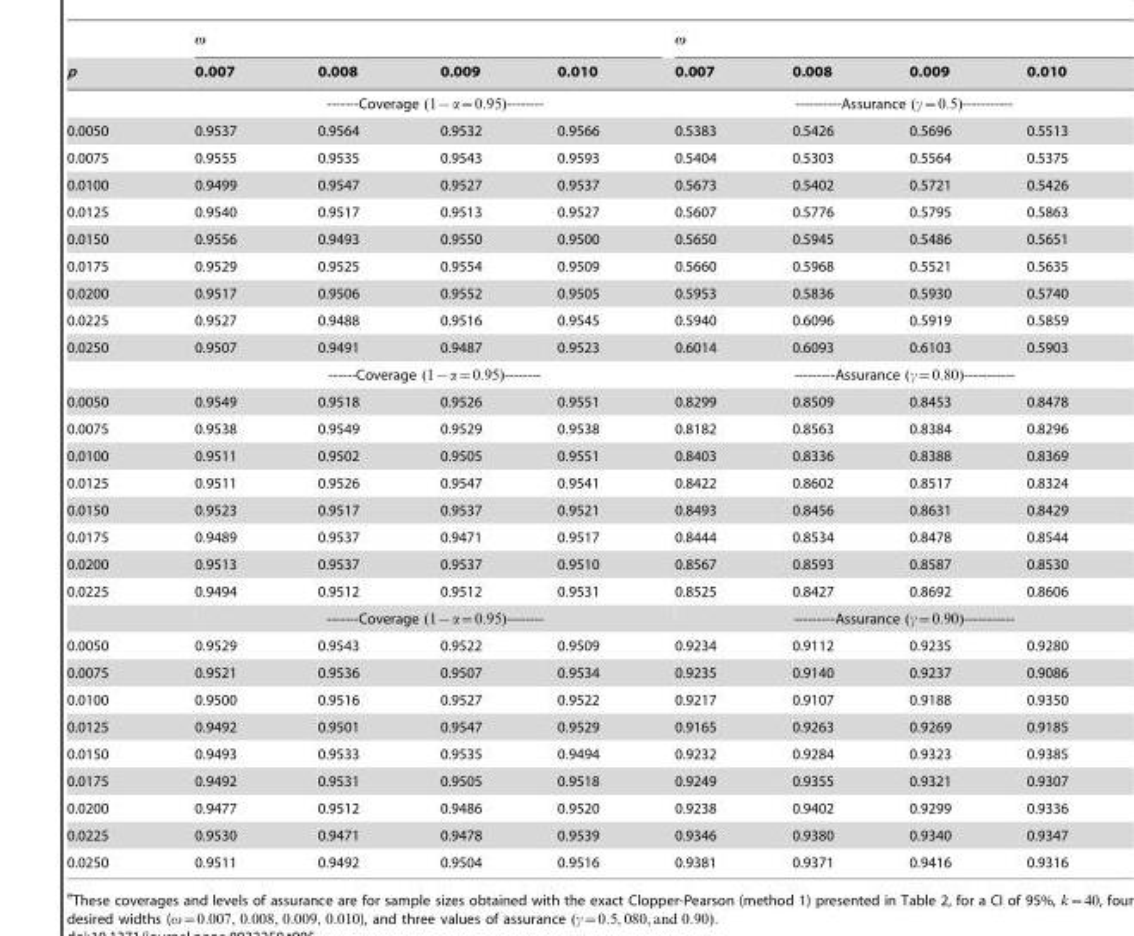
<table><thead><tr><td>p</td><td>0.007</td><td>0.008</td><td>0.009</td><td>0.010</td><td>0.007</td><td>0.008</td><td>0.009</td><td>0.010</td></tr></thead><tbody><tr><td></td><td colspan="4">-------Coverage (1{a~0:95)--------</td><td colspan="4">----------Assurance (c~0:5)-----------</td></tr><tr><td>0.0050</td><td>0.9537</td><td>0.9564</td><td>0.9532</td><td>0.9566</td><td>0.5383</td><td>0.5426</td><td>0.5696</td><td>0.5513</td></tr><tr><td>0.0075</td><td>0.9555</td><td>0.9535</td><td>0.9543</td><td>0.9593</td><td>0.5404</td><td>0.5303</td><td>0.5564</td><td>0.5375</td></tr><tr><td>0.0100</td><td>0.9499</td><td>0.9547</td><td>0.9527</td><td>0.9537</td><td>0.5673</td><td>0.5402</td><td>0.5721</td><td>0.5426</td></tr><tr><td>0.0125</td><td>0.9540</td><td>0.9517</td><td>0.9513</td><td>0.9527</td><td>0.5607</td><td>0.5776</td><td>0.5795</td><td>0.5863</td></tr><tr><td>0.0150</td><td>0.9556</td><td>0.9493</td><td>0.9550</td><td>0.9500</td><td>0.5650</td><td>0.5945</td><td>0.5486</td><td>0.5651</td></tr><tr><td>0.0175</td><td>0.9529</td><td>0.9525</td><td>0.9554</td><td>0.9509</td><td>0.5660</td><td>0.5968</td><td>0.5521</td><td>0.5635</td></tr><tr><td>0.0200</td><td>0.9517</td><td>0.9506</td><td>0.9552</td><td>0.9505</td><td>0.5953</td><td>0.5836</td><td>0.5930</td><td>0.5740</td></tr><tr><td>0.0225</td><td>0.9527</td><td>0.9488</td><td>0.9516</td><td>0.9545</td><td>0.5940</td><td>0.6096</td><td>0.5919</td><td>0.5859</td></tr><tr><td rowspan="2">0.0250</td><td>0.9507</td><td>0.9491</td><td>0.9487</td><td>0.9523</td><td>0.6014</td><td>0.6093</td><td>0.6103</td><td>0.5903</td></tr><tr><td colspan="4">------Coverage (1{a~0:95)--------</td><td colspan="4">---------Assurance (c~0:80)-----------</td></tr><tr><td>0.0050</td><td>0.9549</td><td>0.9518</td><td>0.9526</td><td>0.9551</td><td>0.8299</td><td>0.8509</td><td>0.8453</td><td>0.8478</td></tr><tr><td>0.0075</td><td>0.9538</td><td>0.9549</td><td>0.9529</td><td>0.9538</td><td>0.8182</td><td>0.8563</td><td>0.8384</td><td>0.8296</td></tr><tr><td>0.0100</td><td>0.9511</td><td>0.9502</td><td>0.9505</td><td>0.9551</td><td>0.8403</td><td>0.8336</td><td>0.8388</td><td>0.8369</td></tr><tr><td>0.0125</td><td>0.9511</td><td>0.9526</td><td>0.9547</td><td>0.9541</td><td>0.8422</td><td>0.8602</td><td>0.8517</td><td>0.8324</td></tr><tr><td>0.0150</td><td>0.9523</td><td>0.9517</td><td>0.9537</td><td>0.9521</td><td>0.8493</td><td>0.8456</td><td>0.8631</td><td>0.8429</td></tr><tr><td>0.0175</td><td>0.9489</td><td>0.9537</td><td>0.9471</td><td>0.9517</td><td>0.8444</td><td>0.8534</td><td>0.8478</td><td>0.8544</td></tr><tr><td>0.0200</td><td>0.9513</td><td>0.9537</td><td>0.9537</td><td>0.9510</td><td>0.8567</td><td>0.8593</td><td>0.8587</td><td>0.8530</td></tr><tr><td rowspan="2">0.0225</td><td>0.9494</td><td>0.9512</td><td>0.9512</td><td>0.9531</td><td>0.8525</td><td>0.8427</td><td>0.8692</td><td>0.8606</td></tr><tr><td colspan="4">-------Coverage (1{a~0:95)--------</td><td colspan="4">---------Assurance (c~0:90)-----------</td></tr><tr><td>0.0050</td><td>0.9529</td><td>0.9543</td><td>0.9522</td><td>0.9509</td><td>0.9234</td><td>0.9112</td><td>0.9235</td><td>0.9280</td></tr><tr><td>0.0075</td><td>0.9521</td><td>0.9536</td><td>0.9507</td><td>0.9534</td><td>0.9235</td><td>0.9140</td><td>0.9237</td><td>0.9086</td></tr><tr><td>0.0100</td><td>0.9500</td><td>0.9516</td><td>0.9527</td><td>0.9522</td><td>0.9217</td><td>0.9107</td><td>0.9188</td><td>0.9350</td></tr><tr><td>0.0125</td><td>0.9492</td><td>0.9501</td><td>0.9547</td><td>0.9529</td><td>0.9165</td><td>0.9263</td><td>0.9269</td><td>0.9185</td></tr><tr><td>0.0150</td><td>0.9493</td><td>0.9533</td><td>0.9535</td><td>0.9494</td><td>0.9232</td><td>0.9284</td><td>0.9323</td><td>0.9385</td></tr><tr><td>0.0175</td><td>0.9492</td><td>0.9531</td><td>0.9505</td><td>0.9518</td><td>0.9249</td><td>0.9355</td><td>0.9321</td><td>0.9307</td></tr><tr><td>0.0200</td><td>0.9477</td><td>0.9512</td><td>0.9486</td><td>0.9520</td><td>0.9238</td><td>0.9402</td><td>0.9299</td><td>0.9336</td></tr><tr><td>0.0225</td><td>0.9530</td><td>0.9471</td><td>0.9478</td><td>0.9539</td><td>0.9346</td><td>0.9380</td><td>0.9340</td><td>0.9347</td></tr><tr><td>0.0250</td><td>0.9511</td><td>0.9492</td><td>0.9504</td><td>0.9516</td><td>0.9381</td><td>0.9371</td><td>0.9416</td><td>0.9316</td></tr></tbody></table>